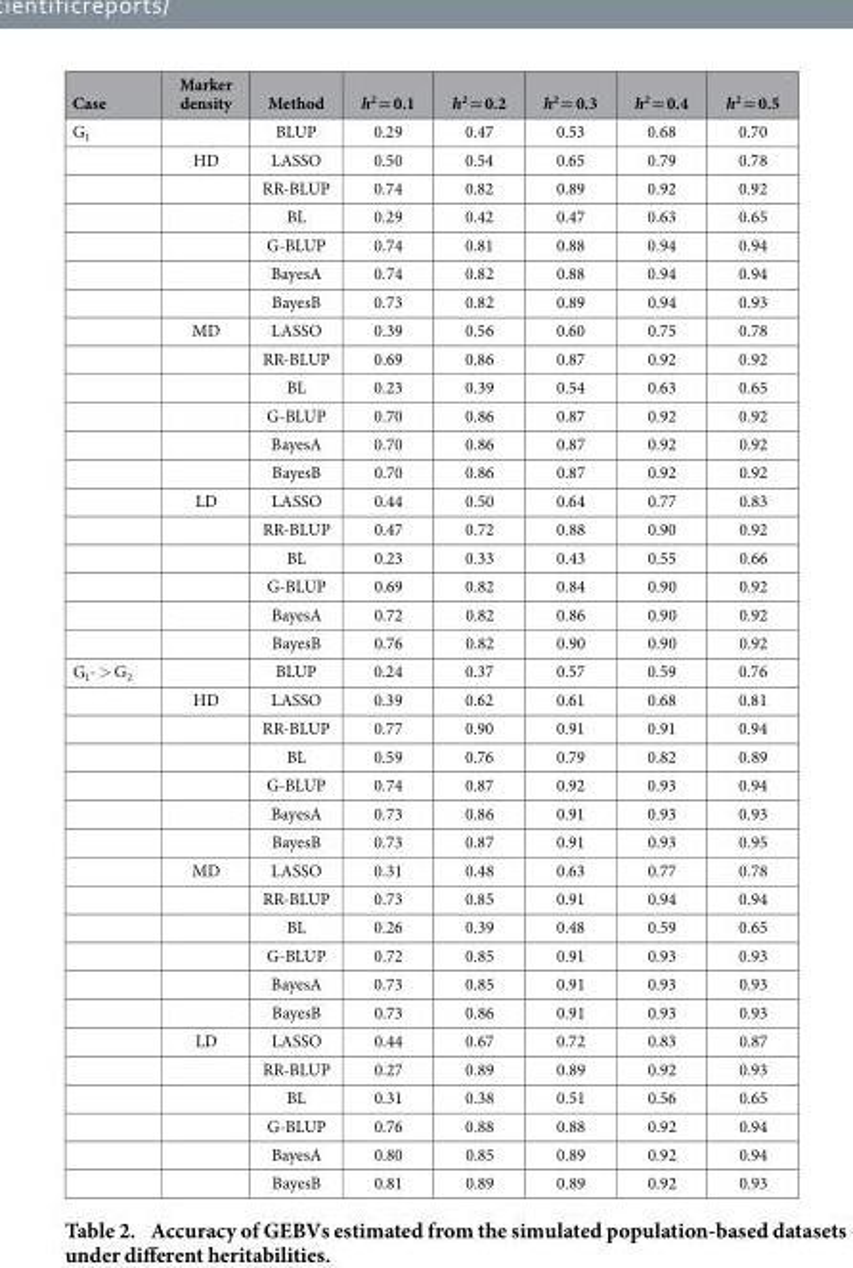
<table><thead><tr><td>Case</td><td>Marker density</td><td>Method</td><td>h<sup>2</sup> = 0.1</td><td>h<sup>2</sup> = 0.2</td><td>h<sup>2</sup> = 0.3</td><td>h<sup>2</sup> = 0.4</td><td>h<sup>2</sup> = 0.5</td></tr></thead><tbody><tr><td rowspan="19">G<sub>1</sub></td><td></td><td>BLUP</td><td>0.29</td><td>0.47</td><td>0.53</td><td>0.68</td><td>0.70</td></tr><tr><td>HD</td><td>LASSO</td><td>0.50</td><td>0.54</td><td>0.65</td><td>0.79</td><td>0.78</td></tr><tr><td></td><td>RR-BLUP</td><td>0.74</td><td>0.82</td><td>0.89</td><td>0.92</td><td>0.92</td></tr><tr><td></td><td>BL</td><td>0.29</td><td>0.42</td><td>0.47</td><td>0.63</td><td>0.65</td></tr><tr><td></td><td>G-BLUP</td><td>0.74</td><td>0.81</td><td>0.88</td><td>0.94</td><td>0.94</td></tr><tr><td></td><td>BayesA</td><td>0.74</td><td>0.82</td><td>0.88</td><td>0.94</td><td>0.94</td></tr><tr><td></td><td>BayesB</td><td>0.73</td><td>0.82</td><td>0.89</td><td>0.94</td><td>0.93</td></tr><tr><td>MD</td><td>LASSO</td><td>0.39</td><td>0.56</td><td>0.60</td><td>0.75</td><td>0.78</td></tr><tr><td></td><td>RR-BLUP</td><td>0.69</td><td>0.86</td><td>0.87</td><td>0.92</td><td>0.92</td></tr><tr><td></td><td>BL</td><td>0.23</td><td>0.39</td><td>0.54</td><td>0.63</td><td>0.65</td></tr><tr><td></td><td>G-BLUP</td><td>0.70</td><td>0.86</td><td>0.87</td><td>0.92</td><td>0.92</td></tr><tr><td></td><td>BayesA</td><td>0.70</td><td>0.86</td><td>0.87</td><td>0.92</td><td>0.92</td></tr><tr><td></td><td>BayesB</td><td>0.70</td><td>0.86</td><td>0.87</td><td>0.92</td><td>0.92</td></tr><tr><td>LD</td><td>LASSO</td><td>0.44</td><td>0.50</td><td>0.64</td><td>0.77</td><td>0.83</td></tr><tr><td></td><td>RR-BLUP</td><td>0.47</td><td>0.72</td><td>0.88</td><td>0.90</td><td>0.92</td></tr><tr><td></td><td>BL</td><td>0.23</td><td>0.33</td><td>0.43</td><td>0.55</td><td>0.66</td></tr><tr><td></td><td>G-BLUP</td><td>0.69</td><td>0.82</td><td>0.84</td><td>0.90</td><td>0.92</td></tr><tr><td></td><td>BayesA</td><td>0.72</td><td>0.82</td><td>0.86</td><td>0.90</td><td>0.92</td></tr><tr><td></td><td>BayesB</td><td>0.76</td><td>0.82</td><td>0.90</td><td>0.90</td><td>0.92</td></tr><tr><td rowspan="19">G<sub>1</sub>- &gt; G<sub>2</sub></td><td></td><td>BLUP</td><td>0.24</td><td>0.37</td><td>0.57</td><td>0.59</td><td>0.76</td></tr><tr><td>HD</td><td>LASSO</td><td>0.39</td><td>0.62</td><td>0.61</td><td>0.68</td><td>0.81</td></tr><tr><td></td><td>RR-BLUP</td><td>0.77</td><td>0.90</td><td>0.91</td><td>0.91</td><td>0.94</td></tr><tr><td></td><td>BL</td><td>0.59</td><td>0.76</td><td>0.79</td><td>0.82</td><td>0.89</td></tr><tr><td></td><td>G-BLUP</td><td>0.74</td><td>0.87</td><td>0.92</td><td>0.93</td><td>0.94</td></tr><tr><td></td><td>BayesA</td><td>0.73</td><td>0.86</td><td>0.91</td><td>0.93</td><td>0.93</td></tr><tr><td></td><td>BayesB</td><td>0.73</td><td>0.87</td><td>0.91</td><td>0.93</td><td>0.95</td></tr><tr><td>MD</td><td>LASSO</td><td>0.31</td><td>0.48</td><td>0.63</td><td>0.77</td><td>0.78</td></tr><tr><td></td><td>RR-BLUP</td><td>0.73</td><td>0.85</td><td>0.91</td><td>0.94</td><td>0.94</td></tr><tr><td></td><td>BL</td><td>0.26</td><td>0.39</td><td>0.48</td><td>0.59</td><td>0.65</td></tr><tr><td></td><td>G-BLUP</td><td>0.72</td><td>0.85</td><td>0.91</td><td>0.93</td><td>0.93</td></tr><tr><td></td><td>BayesA</td><td>0.73</td><td>0.85</td><td>0.91</td><td>0.93</td><td>0.93</td></tr><tr><td></td><td>BayesB</td><td>0.73</td><td>0.86</td><td>0.91</td><td>0.93</td><td>0.93</td></tr><tr><td>LD</td><td>LASSO</td><td>0.44</td><td>0.67</td><td>0.72</td><td>0.83</td><td>0.87</td></tr><tr><td></td><td>RR-BLUP</td><td>0.27</td><td>0.89</td><td>0.89</td><td>0.92</td><td>0.93</td></tr><tr><td></td><td>BL</td><td>0.31</td><td>0.38</td><td>0.51</td><td>0.56</td><td>0.65</td></tr><tr><td></td><td>G-BLUP</td><td>0.76</td><td>0.88</td><td>0.88</td><td>0.92</td><td>0.94</td></tr><tr><td></td><td>BayesA</td><td>0.80</td><td>0.85</td><td>0.89</td><td>0.92</td><td>0.94</td></tr><tr><td></td><td>BayesB</td><td>0.81</td><td>0.89</td><td>0.89</td><td>0.92</td><td>0.93</td></tr></tbody></table>